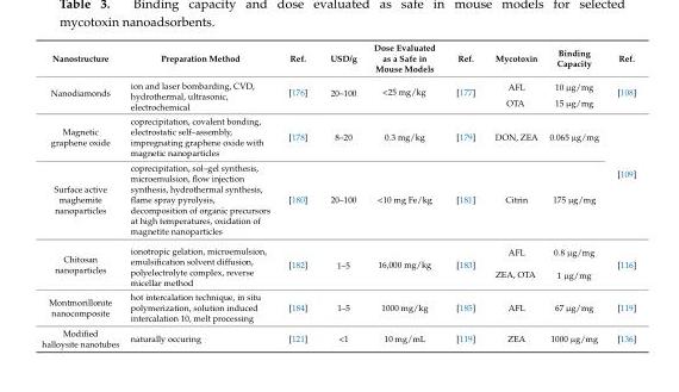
<table><thead><tr><td>Nanostructure</td><td>Preparation Method</td><td>Ref.</td><td>USD/g</td><td>Dose Evaluated as a Safe in Mouse Models</td><td>Ref.</td><td>Mycotoxin</td><td>Binding Capacity</td><td>Ref.</td></tr></thead><tbody><tr><td rowspan="2">Nanodiamonds</td><td rowspan="2">ion and laser bombarding, CVD, hydrothermal, ultrasonic, electrochemical</td><td rowspan="2">[176]</td><td rowspan="2">20–100</td><td rowspan="2">&lt;25 mg/kg</td><td rowspan="2">[177]</td><td>AFL</td><td>10 µg/mg</td><td rowspan="2">[108]</td></tr><tr><td>OTA</td><td>15 µg/mg</td></tr><tr><td>Magnetic graphene oxide</td><td>coprecipitation, covalent bonding, electrostatic self–assembly, impregnating graphene oxide with magnetic nanoparticles</td><td>[178]</td><td>8–20</td><td>0.3 mg/kg</td><td>[179]</td><td>DON, ZEA</td><td>0.065 µg/mg</td><td rowspan="2">[109]</td></tr><tr><td>Surface active maghemite nanoparticles</td><td>coprecipitation, sol–gel synthesis, microemulsion, flow injection synthesis, hydrothermal synthesis, flame spray pyrolysis, decomposition of organic precursors at high temperatures, oxidation of magnetite nanoparticles</td><td>[180]</td><td>20–100</td><td>&lt;10 mg Fe/kg</td><td>[181]</td><td>Citrin</td><td>175 µg/mg</td></tr><tr><td rowspan="2">Chitosan nanoparticles</td><td rowspan="2">ionotropic gelation, microemulsion, emulsification solvent diffusion, polyelectrolyte complex, reverse micellar method</td><td rowspan="2">[182]</td><td rowspan="2">1–5</td><td rowspan="2">16,000 mg/kg</td><td rowspan="2">[183]</td><td>AFL</td><td>0.8 µg/mg</td><td rowspan="2">[116]</td></tr><tr><td>ZEA, OTA</td><td>1 µg/mg</td></tr><tr><td>Montmorillonite nanocomposite</td><td>hot intercalation technique, in situ polymerization, solution induced intercalation 10, melt processing</td><td>[184]</td><td>1–5</td><td>1000 mg/kg</td><td>[185]</td><td>AFL</td><td>67 µg/mg</td><td>[119]</td></tr><tr><td>Modified halloysite nanotubes</td><td>naturally occuring</td><td>[121]</td><td>&lt;1</td><td>10 mg/mL</td><td>[119]</td><td>ZEA</td><td>1000 µg/mg</td><td>[136]</td></tr></tbody></table>